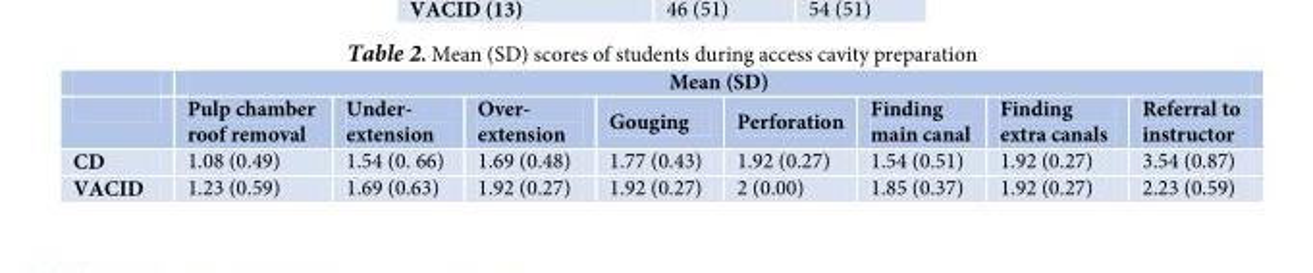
<table><thead><tr><td rowspan="2"></td><td colspan="8">Mean (SD)</td></tr><tr><td>Pulp chamber roof removal</td><td>Under- extension</td><td>Over- extension</td><td>Gouging</td><td>Perforation</td><td>Finding main canal</td><td>Finding extra canals</td><td>Referral to instructor</td></tr></thead><tbody><tr><td>CD</td><td>1.08 (0.49)</td><td>1.54 (0. 66)</td><td>1.69 (0.48)</td><td>1.77 (0.43)</td><td>1.92 (0.27)</td><td>1.54 (0.51)</td><td>1.92 (0.27)</td><td>3.54 (0.87)</td></tr><tr><td>VACID</td><td>1.23 (0.59)</td><td>1.69 (0.63)</td><td>1.92 (0.27)</td><td>1.92 (0.27)</td><td>2 (0.00)</td><td>1.85 (0.37)</td><td>1.92 (0.27)</td><td>2.23 (0.59)</td></tr></tbody></table>